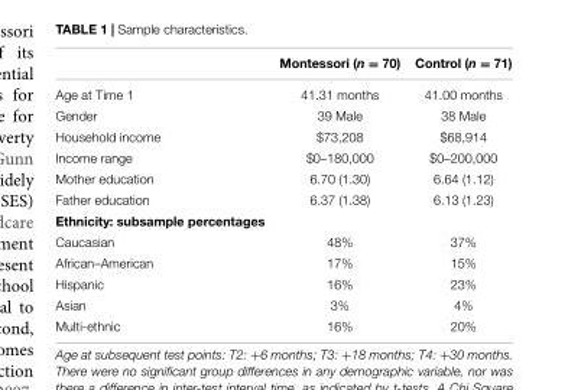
<table><thead><tr><td></td><td>Montessori (n = 70)</td><td>Control (n = 71)</td></tr></thead><tbody><tr><td>Age at Time 1</td><td>41.31 months</td><td>41.00 months</td></tr><tr><td>Gender</td><td>39 Male</td><td>38 Male</td></tr><tr><td>Household income</td><td>$73,208</td><td>$68,914</td></tr><tr><td>Income range</td><td>$0–180,000</td><td>$0–200,000</td></tr><tr><td>Mother education</td><td>6.70 (1.30)</td><td>6.64 (1.12)</td></tr><tr><td>Father education</td><td>6.37 (1.38)</td><td>6.13 (1.23)</td></tr><tr><td colspan="3">Ethnicity: subsample percentages</td></tr><tr><td>Caucasian</td><td>48%</td><td>37%</td></tr><tr><td>African–American</td><td>17%</td><td>15%</td></tr><tr><td>Hispanic</td><td>16%</td><td>23%</td></tr><tr><td>Asian</td><td>3%</td><td>4%</td></tr><tr><td>Multi-ethnic</td><td>16%</td><td>20%</td></tr></tbody></table>